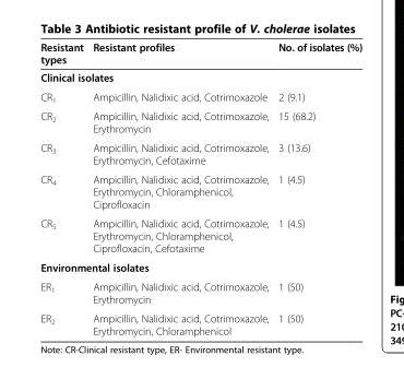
<table><thead><tr><td>Resistant types</td><td>Resistant profiles</td><td>No. of isolates (%)</td></tr></thead><tbody><tr><td colspan="3">Clinical isolates</td></tr><tr><td>CR<sub>1</sub></td><td>Ampicillin, Nalidixic acid, Cotrimoxazole</td><td>2 (9.1)</td></tr><tr><td>CR<sub>2</sub></td><td>Ampicillin, Nalidixic acid, Cotrimoxazole, Erythromycin</td><td>15 (68.2)</td></tr><tr><td>CR<sub>3</sub></td><td>Ampicillin, Nalidixic acid, Cotrimoxazole, Erythromycin, Cefotaxime</td><td>3 (13.6)</td></tr><tr><td>CR<sub>4</sub></td><td>Ampicillin, Nalidixic acid, Cotrimoxazole, Erythromycin, Chloramphenicol, Ciprofloxacin</td><td>1 (4.5)</td></tr><tr><td>CR<sub>5</sub></td><td>Ampicillin, Nalidixic acid, Cotrimoxazole, Erythromycin, Chloramphenicol, Ciprofloxacin, Cefotaxime</td><td>1 (4.5)</td></tr><tr><td colspan="3">Environmental isolates</td></tr><tr><td>ER<sub>1</sub></td><td>Ampicillin, Nalidixic acid, Cotrimoxazole, Erythromycin</td><td>1 (50)</td></tr><tr><td>ER<sub>2</sub></td><td>Ampicillin, Nalidixic acid, Cotrimoxazole, Erythromycin, Chloramphenicol</td><td>1 (50)</td></tr></tbody></table>